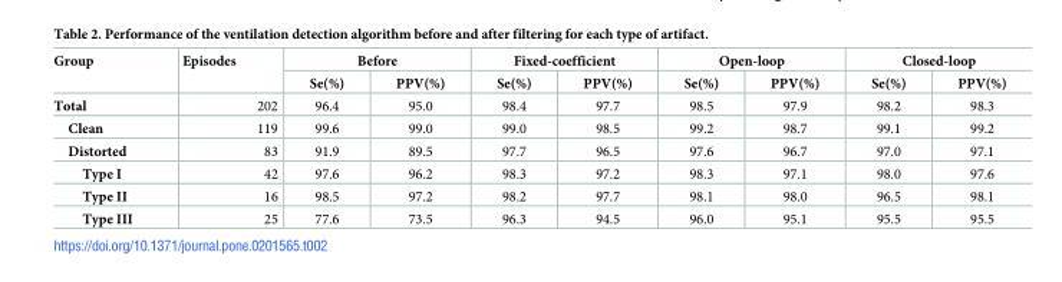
<table><thead><tr><td rowspan="2">Group</td><td rowspan="2">Episodes</td><td colspan="2">Before</td><td colspan="2">Fixed-coefficient</td><td colspan="2">Open-loop</td><td colspan="2">Closed-loop</td></tr><tr><td>Se(%)</td><td>PPV(%)</td><td>Se(%)</td><td>PPV(%)</td><td>Se(%)</td><td>PPV(%)</td><td>Se(%)</td><td>PPV(%)</td></tr></thead><tbody><tr><td>Total</td><td>202</td><td>96.4</td><td>95.0</td><td>98.4</td><td>97.7</td><td>98.5</td><td>97.9</td><td>98.2</td><td>98.3</td></tr><tr><td>Clean</td><td>119</td><td>99.6</td><td>99.0</td><td>99.0</td><td>98.5</td><td>99.2</td><td>98.7</td><td>99.1</td><td>99.2</td></tr><tr><td>Distorted</td><td>83</td><td>91.9</td><td>89.5</td><td>97.7</td><td>96.5</td><td>97.6</td><td>96.7</td><td>97.0</td><td>97.1</td></tr><tr><td>Type I</td><td>42</td><td>97.6</td><td>96.2</td><td>98.3</td><td>97.2</td><td>98.3</td><td>97.1</td><td>98.0</td><td>97.6</td></tr><tr><td>Type II</td><td>16</td><td>98.5</td><td>97.2</td><td>98.2</td><td>97.7</td><td>98.1</td><td>98.0</td><td>96.5</td><td>98.1</td></tr><tr><td>Type III</td><td>25</td><td>77.6</td><td>73.5</td><td>96.3</td><td>94.5</td><td>96.0</td><td>95.1</td><td>95.5</td><td>95.5</td></tr></tbody></table>